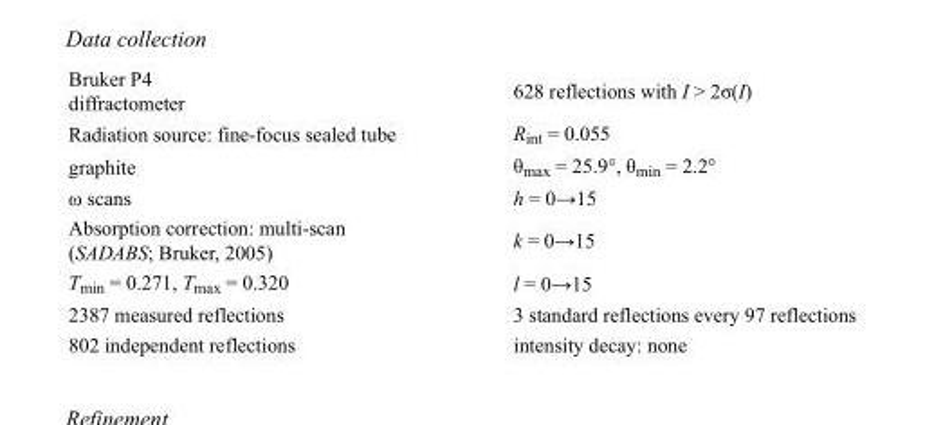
<table><tbody><tr><td>Bruker P4 diffractometer</td><td>628 reflections with I &gt; 2σ(I)</td></tr><tr><td>Radiation source: fine-focus sealed tube</td><td>R<sub>int</sub> = 0.055</td></tr><tr><td>graphite</td><td>θ<sub>max</sub> = 25.9°, θ<sub>min</sub> = 2.2°</td></tr><tr><td>ω scans</td><td>h = 0→15</td></tr><tr><td>Absorption correction: multi-scan (SADABS; Bruker, 2005)</td><td>k = 0→15</td></tr><tr><td>T<sub>min</sub> = 0.271, T<sub>max</sub> = 0.320</td><td>l = 0→15</td></tr><tr><td>2387 measured reflections</td><td>3 standard reflections every 97 reflections</td></tr><tr><td>802 independent reflections</td><td>intensity decay: none</td></tr></tbody></table>